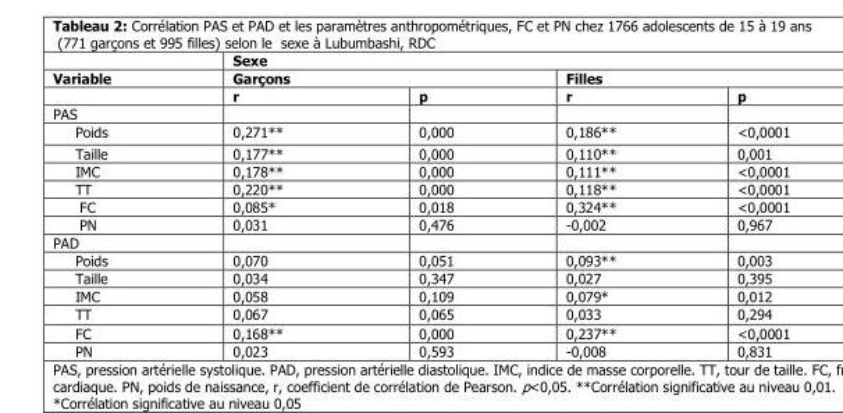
<table><thead><tr><td rowspan="3">Variable</td><td colspan="4">Sexe</td></tr><tr><td colspan="2">Garçons</td><td colspan="2">Filles</td></tr><tr><td>r</td><td>p</td><td>r</td><td>p</td></tr></thead><tbody><tr><td colspan="5">PAS</td></tr><tr><td>Poids</td><td>0,271**</td><td>0,000</td><td>0,186**</td><td>&lt;0,0001</td></tr><tr><td>Taille</td><td>0,177**</td><td>0,000</td><td>0,110**</td><td>0,001</td></tr><tr><td>IMC</td><td>0,178**</td><td>0,000</td><td>0,111**</td><td>&lt;0,0001</td></tr><tr><td>TT</td><td>0,220**</td><td>0,000</td><td>0,118**</td><td>&lt;0,0001</td></tr><tr><td>FC</td><td>0,085*</td><td>0,018</td><td>0,324**</td><td>&lt;0,0001</td></tr><tr><td>PN</td><td>0,031</td><td>0,476</td><td>-0,002</td><td>0,967</td></tr><tr><td colspan="5">PAD</td></tr><tr><td>Poids</td><td>0,070</td><td>0,051</td><td>0,093**</td><td>0,003</td></tr><tr><td>Taille</td><td>0,034</td><td>0,347</td><td>0,027</td><td>0,395</td></tr><tr><td>IMC</td><td>0,058</td><td>0,109</td><td>0,079*</td><td>0,012</td></tr><tr><td>TT</td><td>0,067</td><td>0,065</td><td>0,033</td><td>0,294</td></tr><tr><td>FC</td><td>0,168**</td><td>0,000</td><td>0,237**</td><td>&lt;0,0001</td></tr><tr><td>PN</td><td>0,023</td><td>0,593</td><td>-0,008</td><td>0,831</td></tr></tbody></table>